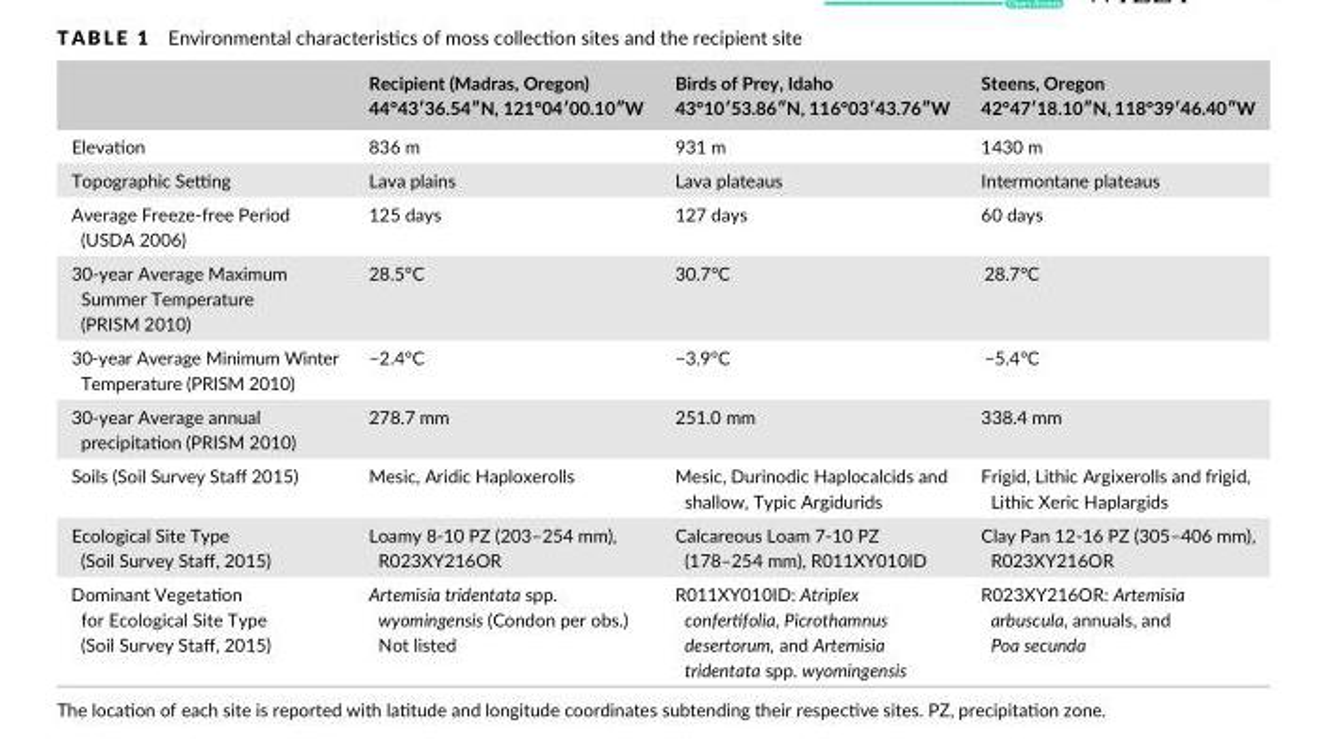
<table><thead><tr><td></td><td>Recipient (Madras, Oregon) 44°43′36.54″N, 121°04′00.10″W</td><td>Birds of Prey, Idaho 43°10′53.86″N, 116°03′43.76″W</td><td>Steens, Oregon 42°47′18.10″N, 118°39′46.40″W</td></tr></thead><tbody><tr><td>Elevation</td><td>836 m</td><td>931 m</td><td>1430 m</td></tr><tr><td>Topographic Setting</td><td>Lava plains</td><td>Lava plateaus</td><td>Intermontane plateaus</td></tr><tr><td>Average Freeze- free Period (USDA 2006)</td><td>125 days</td><td>127 days</td><td>60 days</td></tr><tr><td>30- year Average Maximum Summer Temperature (PRISM 2010)</td><td>28.5°C</td><td>30.7°C</td><td>28.7°C</td></tr><tr><td>30- year Average Minimum Winter Temperature (PRISM 2010)</td><td>−2.4°C</td><td>−3.9°C</td><td>−5.4°C</td></tr><tr><td>30- year Average annual precipitation (PRISM 2010)</td><td>278.7 mm</td><td>251.0 mm</td><td>338.4 mm</td></tr><tr><td>Soils (Soil Survey Staff 2015)</td><td>Mesic, Aridic Haploxerolls</td><td>Mesic, Durinodic Haplocalcids and shallow, Typic Argidurids</td><td>Frigid, Lithic Argixerolls and frigid, Lithic Xeric Haplargids</td></tr><tr><td>Ecological Site Type (Soil Survey Staff, 2015)</td><td>Loamy 8- 10 PZ (203–254 mm), R023XY216OR</td><td>Calcareous Loam 7- 10 PZ (178–254 mm), R011XY010ID</td><td>Clay Pan 12- 16 PZ (305–406 mm), R023XY216OR</td></tr><tr><td>Dominant Vegetation for Ecological Site Type (Soil Survey Staff, 2015)</td><td>Artemisia tridentata spp. wyomingensis (Condon per obs.) Not listed</td><td>R011XY010ID: Atriplex confertifolia, Picrothamnus desertorum, and Artemisia tridentata spp. wyomingensis</td><td>R023XY216OR: Artemisia arbuscula, annuals, and Poa secunda</td></tr></tbody></table>